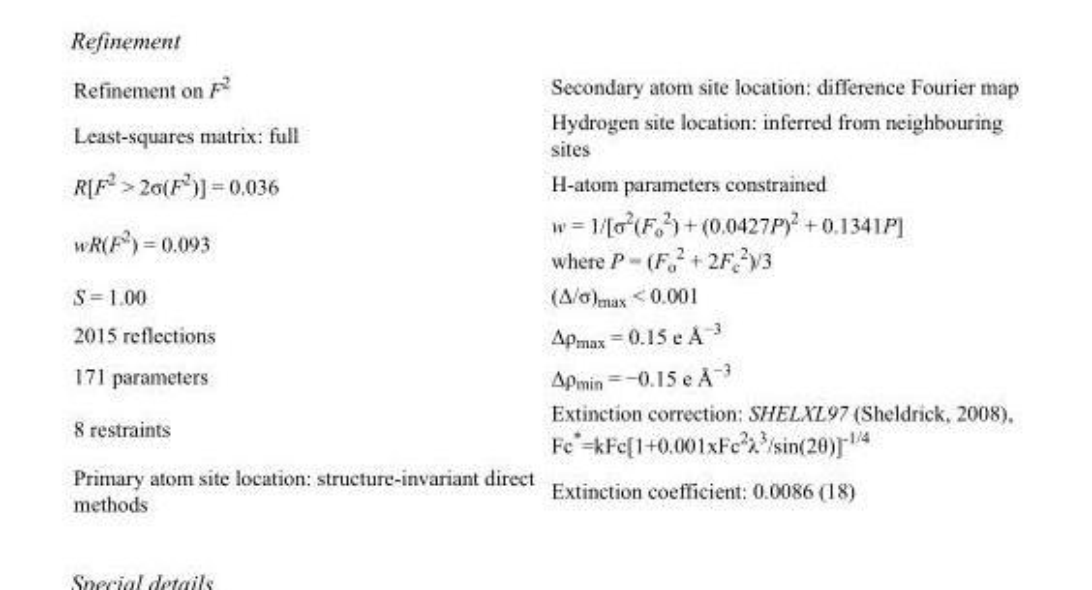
<table><tbody><tr><td>Refinement on F<sup>2</sup></td><td>Secondary atom site location: difference Fourier map</td></tr><tr><td>Least-squares matrix: full</td><td>Hydrogen site location: inferred from neighbouring sites</td></tr><tr><td>R[F<sup>2</sup> &gt; 2σ(F<sup>2</sup>)] = 0.036</td><td>H-atom parameters constrained</td></tr><tr><td>wR(F<sup>2</sup>) = 0.093</td><td>w = 1/[σ<sup>2</sup>(F<sub>o</sub> <sup>2</sup>) + (0.0427P)<sup>2</sup> + 0.1341P] where P = (F<sub>o</sub> <sup>2</sup> + 2F<sub>c</sub> <sup>2</sup>)/3</td></tr><tr><td>S = 1.00</td><td>(Δ/σ)<sub>max</sub> &lt; 0.001</td></tr><tr><td>2015 reflections</td><td>Δρ<sub>max</sub> = 0.15 e Å<sup>−3</sup></td></tr><tr><td>171 parameters</td><td>Δρ<sub>min</sub> = −0.15 e Å<sup>−3</sup></td></tr><tr><td>8 restraints</td><td>Extinction correction: SHELXL97 (Sheldrick, 2008), Fc*=kFc[1+0.001xFc<sup>2</sup>λ<sup>3</sup>/sin(2θ)]<sup>-1/4</sup></td></tr><tr><td>Primary atom site location: structure-invariant direct methods</td><td>Extinction coefficient: 0.0086 (18)</td></tr></tbody></table>